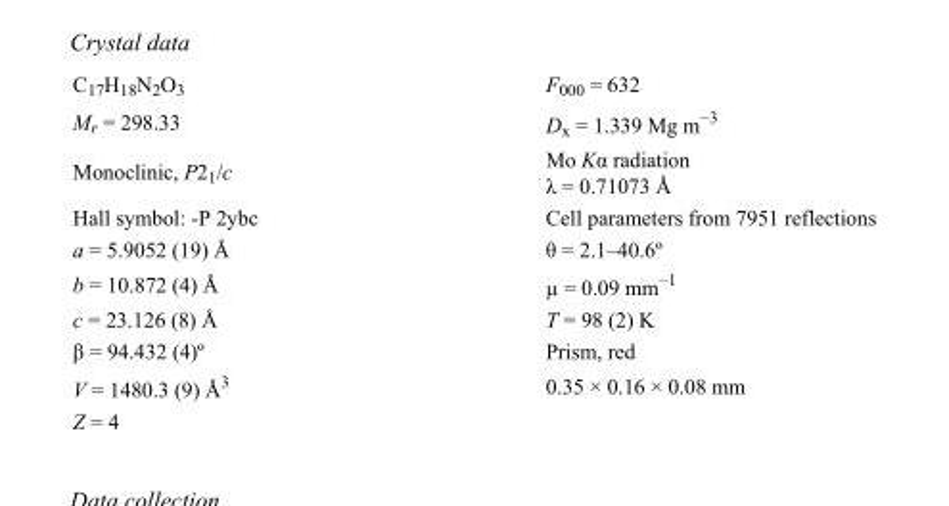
<table><tbody><tr><td>C<sub>17</sub>H<sub>18</sub>N<sub>2</sub>O<sub>3</sub></td><td>F000 = 632</td></tr><tr><td>M<sub>r</sub> = 298.33</td><td>D<sub>x</sub> = 1.339 Mg m<sup>−3</sup></td></tr><tr><td>Monoclinic, P2<sub>1</sub>/c</td><td>Mo Kα radiation λ = 0.71073 Å</td></tr><tr><td>Hall symbol: -P 2ybc</td><td>Cell parameters from 7951 reflections</td></tr><tr><td>a = 5.9052 (19) Å</td><td>θ = 2.1–40.6º</td></tr><tr><td>b = 10.872 (4) Å</td><td>µ = 0.09 mm<sup>−1</sup></td></tr><tr><td>c = 23.126 (8) Å</td><td>T = 98 (2) K</td></tr><tr><td>β = 94.432 (4)º</td><td>Prism, red</td></tr><tr><td>V = 1480.3 (9) Å<sup>3</sup></td><td>0.35 × 0.16 × 0.08 mm</td></tr><tr><td>Z = 4</td><td></td></tr></tbody></table>